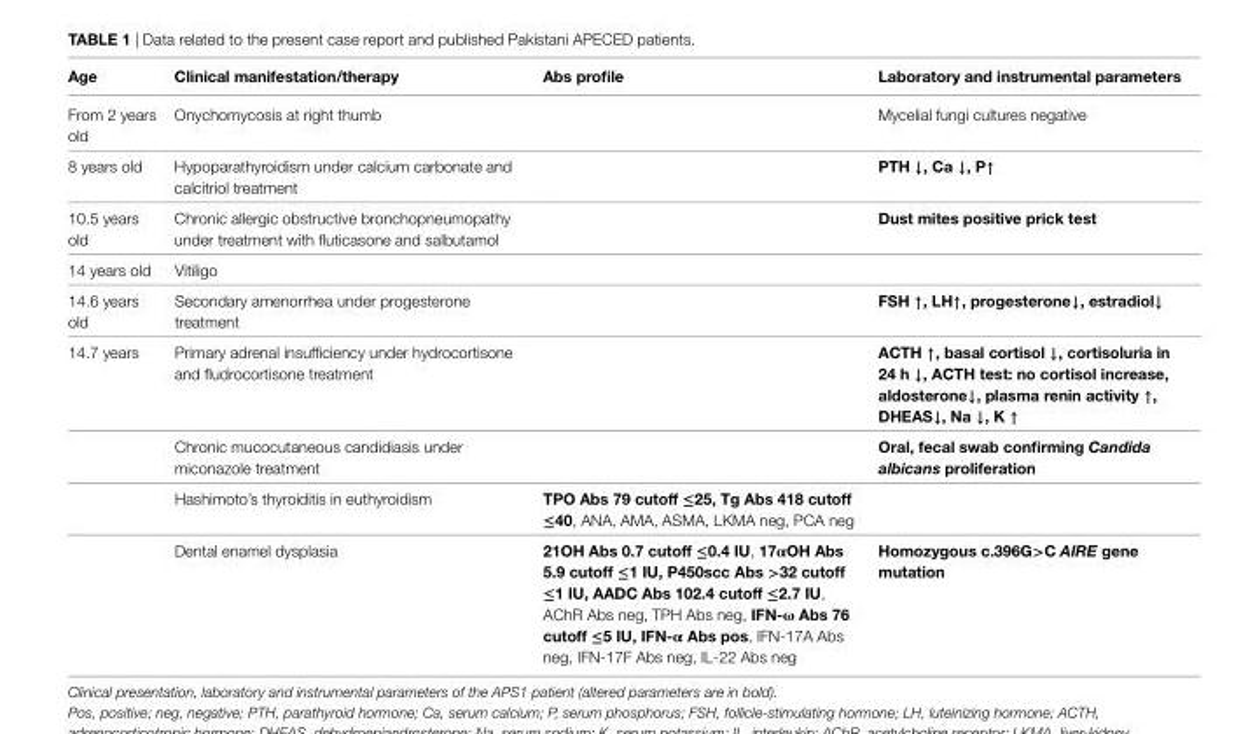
<table><thead><tr><td>age</td><td>Clinical manifestation/therapy</td><td>abs profile</td><td>Laboratory and instrumental parameters</td></tr></thead><tbody><tr><td>From 2 years old</td><td>Onychomycosis at right thumb</td><td></td><td>Mycelial fungi cultures negative</td></tr><tr><td>8 years old</td><td>Hypoparathyroidism under calcium carbonate and calcitriol treatment</td><td></td><td>ptH ↓, Ca ↓, p↑</td></tr><tr><td>10.5 years old</td><td>Chronic allergic obstructive bronchopneumopathy under treatment with fluticasone and salbutamol</td><td></td><td>Dust mites positive prick test</td></tr><tr><td>14 years old</td><td>Vitiligo</td><td></td><td></td></tr><tr><td>14.6 years old</td><td>Secondary amenorrhea under progesterone treatment</td><td></td><td>FsH ↑, LH↑, progesterone↓, estradiol↓</td></tr><tr><td rowspan="4">14.7 years</td><td>Primary adrenal insufficiency under hydrocortisone and fludrocortisone treatment</td><td></td><td>aCtH ↑, basal cortisol ↓, cortisoluria in 24 h ↓, aCtH test: no cortisol increase, aldosterone↓, plasma renin activity ↑, DHeas↓, Na ↓, K ↑</td></tr><tr><td>Chronic mucocutaneous candidiasis under miconazole treatment</td><td></td><td>oral, fecal swab confirming Candida albicans proliferation</td></tr><tr><td>Hashimoto’s thyroiditis in euthyroidism</td><td>tpo abs 79 cutoff ≤25, tg abs 418 cutoff ≤40, ANA, AMA, ASMA, LKMA neg, PCA neg</td><td></td></tr><tr><td>Dental enamel dysplasia</td><td>21oH abs 0.7 cutoff ≤0.4 IU, 17αoH abs 5.9 cutoff ≤1 IU, p450scc abs &gt;32 cutoff ≤1 IU, aaDC abs 102.4 cutoff ≤2.7 IU, AChR Abs neg, TPH Abs neg, IFN-ω abs 76 cutoff ≤5 IU, IFN-α abs pos, IFN-17A Abs neg, IFN-17F Abs neg, IL-22 Abs neg</td><td>Homozygous c.396G&gt;C AIRE gene mutation</td></tr></tbody></table>